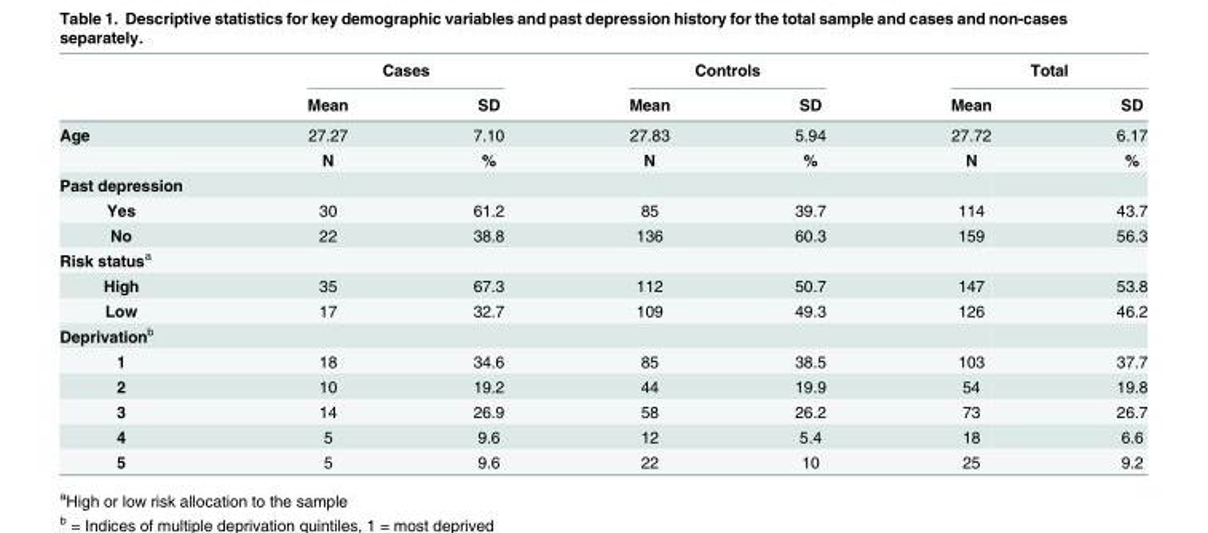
<table><thead><tr><td rowspan="2"></td><td colspan="2">Cases</td><td colspan="2">Controls</td><td colspan="2">Total</td></tr><tr><td>Mean</td><td>SD</td><td>Mean</td><td>SD</td><td>Mean</td><td>SD</td></tr></thead><tbody><tr><td rowspan="2">Age</td><td>27.27</td><td>7.10</td><td>27.83</td><td>5.94</td><td>27.72</td><td>6.17</td></tr><tr><td>N</td><td>%</td><td>N</td><td>%</td><td>N</td><td>%</td></tr><tr><td colspan="7">Past depression</td></tr><tr><td>Yes</td><td>30</td><td>61.2</td><td>85</td><td>39.7</td><td>114</td><td>43.7</td></tr><tr><td>No</td><td>22</td><td>38.8</td><td>136</td><td>60.3</td><td>159</td><td>56.3</td></tr><tr><td colspan="7">Risk status<sup>a</sup></td></tr><tr><td>High</td><td>35</td><td>67.3</td><td>112</td><td>50.7</td><td>147</td><td>53.8</td></tr><tr><td>Low</td><td>17</td><td>32.7</td><td>109</td><td>49.3</td><td>126</td><td>46.2</td></tr><tr><td colspan="7">Deprivation<sup>b</sup></td></tr><tr><td>1</td><td>18</td><td>34.6</td><td>85</td><td>38.5</td><td>103</td><td>37.7</td></tr><tr><td>2</td><td>10</td><td>19.2</td><td>44</td><td>19.9</td><td>54</td><td>19.8</td></tr><tr><td>3</td><td>14</td><td>26.9</td><td>58</td><td>26.2</td><td>73</td><td>26.7</td></tr><tr><td>4</td><td>5</td><td>9.6</td><td>12</td><td>5.4</td><td>18</td><td>6.6</td></tr><tr><td>5</td><td>5</td><td>9.6</td><td>22</td><td>10</td><td>25</td><td>9.2</td></tr></tbody></table>